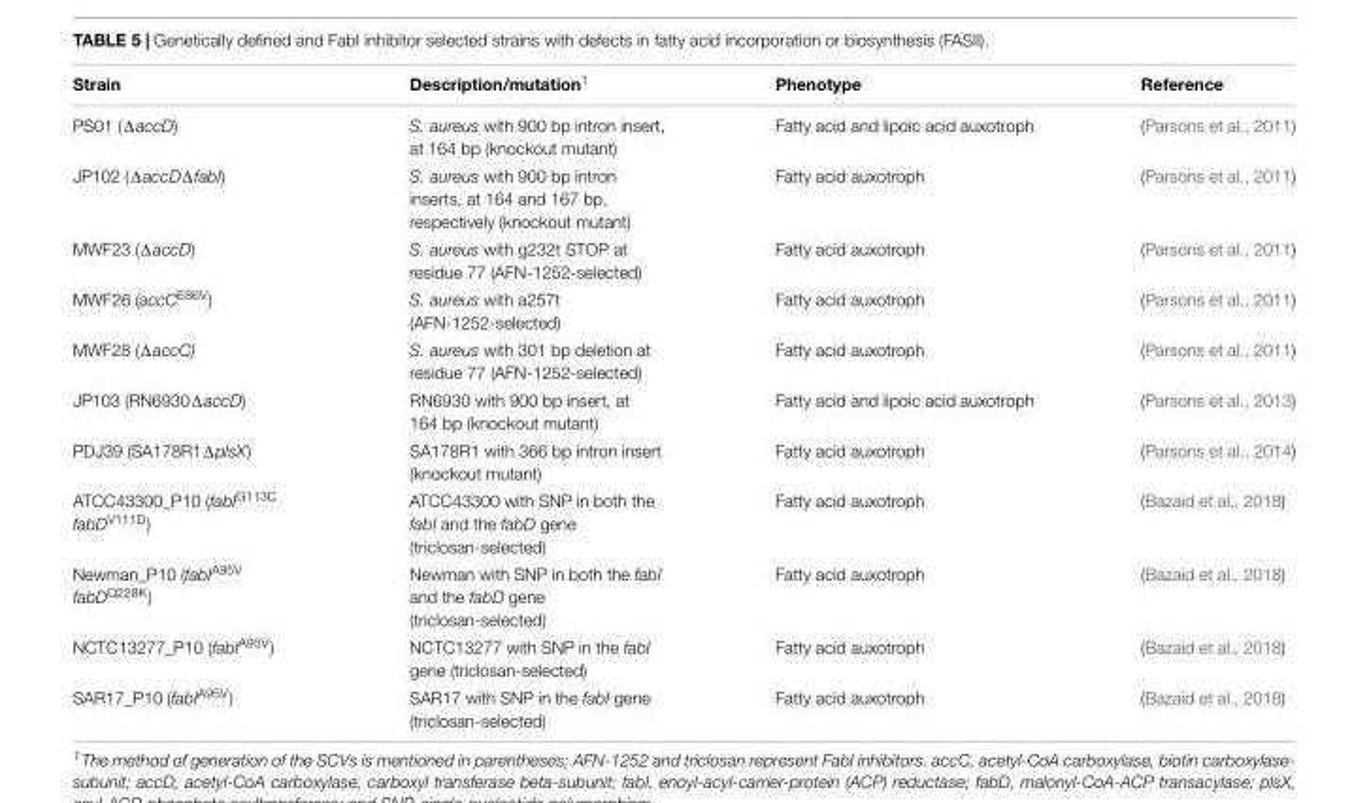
<table><thead><tr><td>Strain</td><td>Description/mutation<sup>1</sup></td><td>Phenotype</td><td>Reference</td></tr></thead><tbody><tr><td>PS01 (ΔaccD)</td><td>S. aureus with 900 bp intron insert, at 164 bp (knockout mutant)</td><td>Fatty acid and lipoic acid auxotroph</td><td>(Parsons et al., 2011)</td></tr><tr><td>JP102 (ΔaccDΔfabI)</td><td>S. aureus with 900 bp intron inserts, at 164 and 167 bp, respectively (knockout mutant)</td><td>Fatty acid auxotroph</td><td>(Parsons et al., 2011)</td></tr><tr><td>MWF23 (ΔaccD)</td><td>S. aureus with g232t STOP at residue 77 (AFN-1252-selected)</td><td>Fatty acid auxotroph</td><td>(Parsons et al., 2011)</td></tr><tr><td>MWF26 (accC<sup>E86V</sup>)</td><td>S. aureus with a257t (AFN-1252-selected)</td><td>Fatty acid auxotroph</td><td>(Parsons et al., 2011)</td></tr><tr><td>MWF28 (ΔaccC)</td><td>S. aureus with 301 bp deletion at residue 77 (AFN-1252-selected)</td><td>Fatty acid auxotroph</td><td>(Parsons et al., 2011)</td></tr><tr><td>JP103 (RN6930ΔaccD)</td><td>RN6930 with 900 bp insert, at 164 bp (knockout mutant)</td><td>Fatty acid and lipoic acid auxotroph</td><td>(Parsons et al., 2013)</td></tr><tr><td>PDJ39 (SA178R1ΔplsX)</td><td>SA178R1 with 366 bp intron insert (knockout mutant)</td><td>Fatty acid auxotroph</td><td>(Parsons et al., 2014)</td></tr><tr><td>ATCC43300_P10 (fabI<sup>G113C</sup> fabD<sup>V111D</sup>)</td><td>ATCC43300 with SNP in both the fabI and the fabD gene (triclosan-selected)</td><td>Fatty acid auxotroph</td><td>(Bazaid et al., 2018)</td></tr><tr><td>Newman_P10 (fabI<sup>A95V</sup> fabD<sup>Q228K</sup>)</td><td>Newman with SNP in both the fabI and the fabD gene (triclosan-selected)</td><td>Fatty acid auxotroph</td><td>(Bazaid et al., 2018)</td></tr><tr><td>NCTC13277_P10 (fabI<sup>A95V</sup>)</td><td>NCTC13277 with SNP in the fabI gene (triclosan-selected)</td><td>Fatty acid auxotroph</td><td>(Bazaid et al., 2018)</td></tr><tr><td>SAR17_P10 (fabI<sup>A95V</sup>)</td><td>SAR17 with SNP in the fabI gene (triclosan-selected)</td><td>Fatty acid auxotroph</td><td>(Bazaid et al., 2018)</td></tr></tbody></table>